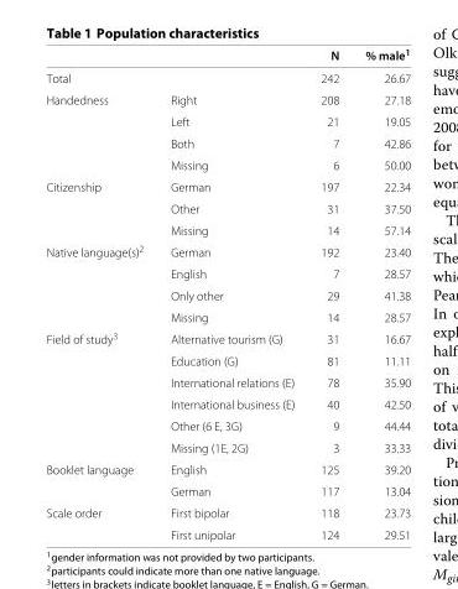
<table><thead><tr><td></td><td></td><td>N</td><td>% male<sup>1</sup></td></tr></thead><tbody><tr><td>Total</td><td></td><td>242</td><td>26.67</td></tr><tr><td rowspan="4">Handedness</td><td>Right</td><td>208</td><td>27.18</td></tr><tr><td>Left</td><td>21</td><td>19.05</td></tr><tr><td>Both</td><td>7</td><td>42.86</td></tr><tr><td>Missing</td><td>6</td><td>50.00</td></tr><tr><td rowspan="3">Citizenship</td><td>German</td><td>197</td><td>22.34</td></tr><tr><td>Other</td><td>31</td><td>37.50</td></tr><tr><td>Missing</td><td>14</td><td>57.14</td></tr><tr><td rowspan="4">Native language(s)<sup>2</sup></td><td>German</td><td>192</td><td>23.40</td></tr><tr><td>English</td><td>7</td><td>28.57</td></tr><tr><td>Only other</td><td>29</td><td>41.38</td></tr><tr><td>Missing</td><td>14</td><td>28.57</td></tr><tr><td rowspan="6">Field of study<sup>3</sup></td><td>Alternative tourism (G)</td><td>31</td><td>16.67</td></tr><tr><td>Education (G)</td><td>81</td><td>11.11</td></tr><tr><td>International relations (E)</td><td>78</td><td>35.90</td></tr><tr><td>International business (E)</td><td>40</td><td>42.50</td></tr><tr><td>Other (6 E, 3G)</td><td>9</td><td>44.44</td></tr><tr><td>Missing (1E, 2G)</td><td>3</td><td>33.33</td></tr><tr><td rowspan="2">Booklet language</td><td>English</td><td>125</td><td>39.20</td></tr><tr><td>German</td><td>117</td><td>13.04</td></tr><tr><td rowspan="2">Scale order</td><td>First bipolar</td><td>118</td><td>23.73</td></tr><tr><td>First unipolar</td><td>124</td><td>29.51</td></tr></tbody></table>